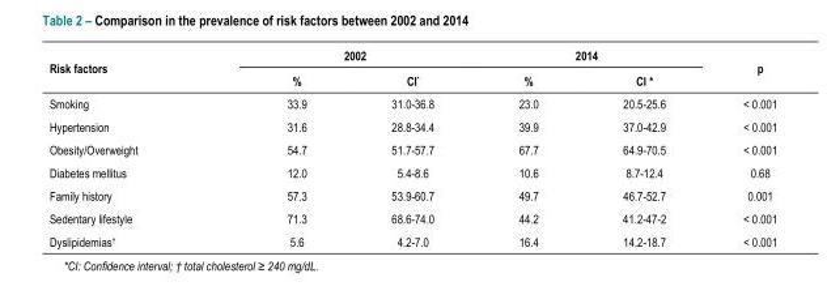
<table><thead><tr><td rowspan="2">Risk factors</td><td colspan="2">2002</td><td colspan="2">2014</td><td rowspan="2">p</td></tr><tr><td>%</td><td>CI*</td><td>%</td><td>CI *</td></tr></thead><tbody><tr><td>Smoking</td><td>33.9</td><td>31.0-36.8</td><td>23.0</td><td>20.5-25.6</td><td>&lt; 0.001</td></tr><tr><td>Hypertension</td><td>31.6</td><td>28.8-34.4</td><td>39.9</td><td>37.0-42.9</td><td>&lt; 0.001</td></tr><tr><td>Obesity/Overweight</td><td>54.7</td><td>51.7-57.7</td><td>67.7</td><td>64.9-70.5</td><td>&lt; 0.001</td></tr><tr><td>Diabetes mellitus</td><td>12.0</td><td>5.4-8.6</td><td>10.6</td><td>8.7-12.4</td><td>0.68</td></tr><tr><td>Family history</td><td>57.3</td><td>53.9-60.7</td><td>49.7</td><td>46.7-52.7</td><td>0.001</td></tr><tr><td>Sedentary lifestyle</td><td>71.3</td><td>68.6-74.0</td><td>44.2</td><td>41.2-47-2</td><td>&lt; 0.001</td></tr><tr><td>Dyslipidemias†</td><td>5.6</td><td>4.2-7.0</td><td>16.4</td><td>14.2-18.7</td><td>&lt; 0.001</td></tr></tbody></table>